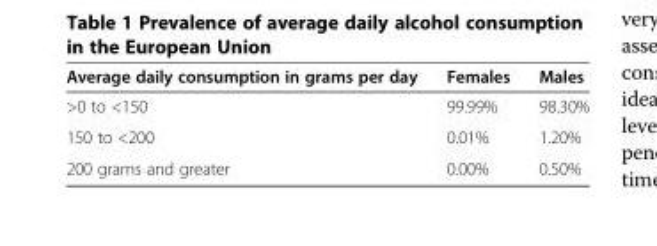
<table><thead><tr><td>Average daily consumption in grams per day</td><td>Females</td><td>Males</td></tr></thead><tbody><tr><td>&gt;0 to &lt;150</td><td>99.99%</td><td>98.30%</td></tr><tr><td>150 to &lt;200</td><td>0.01%</td><td>1.20%</td></tr><tr><td>200 grams and greater</td><td>0.00%</td><td>0.50%</td></tr></tbody></table>